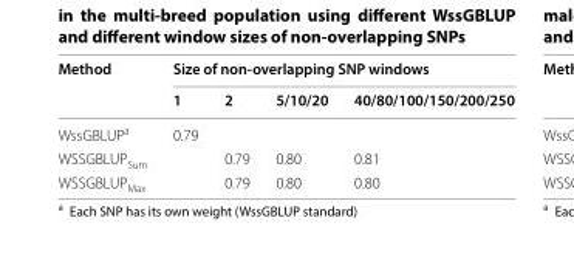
<table><thead><tr><td rowspan="2">Method</td><td colspan="4">Size of non‑overlapping SNP windows</td></tr><tr><td>1</td><td>2</td><td>5/10/20</td><td>40/80/100/150/200/250</td></tr></thead><tbody><tr><td>WssGBLUP<sup>a</sup></td><td>0.79</td><td></td><td></td><td></td></tr><tr><td>WSSGBLUP<sub>Sum</sub></td><td></td><td>0.79</td><td>0.80</td><td>0.81</td></tr><tr><td>WSSGBLUP<sub>Max</sub></td><td></td><td>0.79</td><td>0.80</td><td>0.80</td></tr></tbody></table>